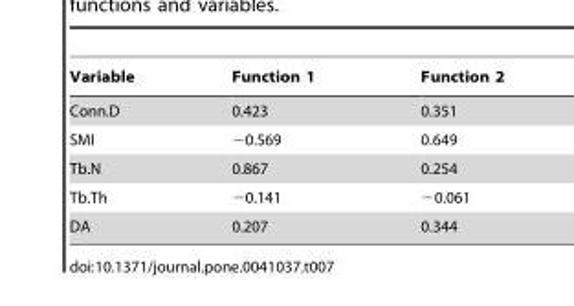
<table><thead><tr><td>Variable</td><td>Function 1</td><td>Function 2</td></tr></thead><tbody><tr><td>Conn.D</td><td>0.423</td><td>0.351</td></tr><tr><td>SMI</td><td>−0.569</td><td>0.649</td></tr><tr><td>Tb.N</td><td>0.867</td><td>0.254</td></tr><tr><td>Tb.Th</td><td>−0.141</td><td>−0.061</td></tr><tr><td>DA</td><td>0.207</td><td>0.344</td></tr></tbody></table>